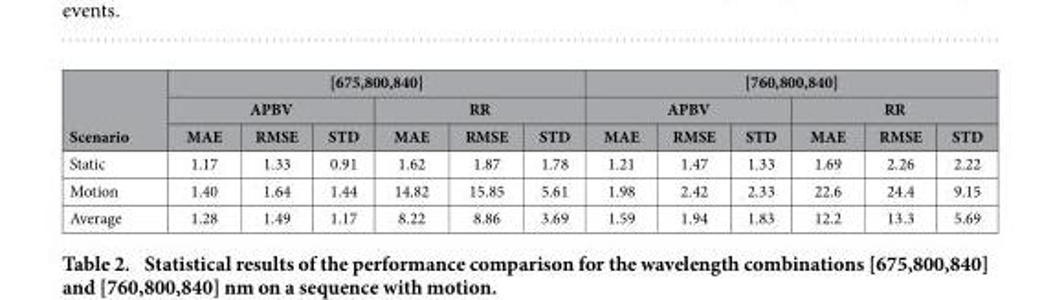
<table><thead><tr><td rowspan="3">Scenario</td><td colspan="6">[675,800,840]</td><td colspan="6">[760,800,840]</td></tr><tr><td colspan="3">APBV</td><td colspan="3">RR</td><td colspan="3">APBV</td><td colspan="3">RR</td></tr><tr><td>MAE</td><td>RMSE</td><td>STD</td><td>MAE</td><td>RMSE</td><td>STD</td><td>MAE</td><td>RMSE</td><td>STD</td><td>MAE</td><td>RMSE</td><td>STD</td></tr></thead><tbody><tr><td>Static</td><td>1.17</td><td>1.33</td><td>0.91</td><td>1.62</td><td>1.87</td><td>1.78</td><td>1.21</td><td>1.47</td><td>1.33</td><td>1.69</td><td>2.26</td><td>2.22</td></tr><tr><td>Motion</td><td>1.40</td><td>1.64</td><td>1.44</td><td>14.82</td><td>15.85</td><td>5.61</td><td>1.98</td><td>2.42</td><td>2.33</td><td>22.6</td><td>24.4</td><td>9.15</td></tr><tr><td>Average</td><td>1.28</td><td>1.49</td><td>1.17</td><td>8.22</td><td>8.86</td><td>3.69</td><td>1.59</td><td>1.94</td><td>1.83</td><td>12.2</td><td>13.3</td><td>5.69</td></tr></tbody></table>